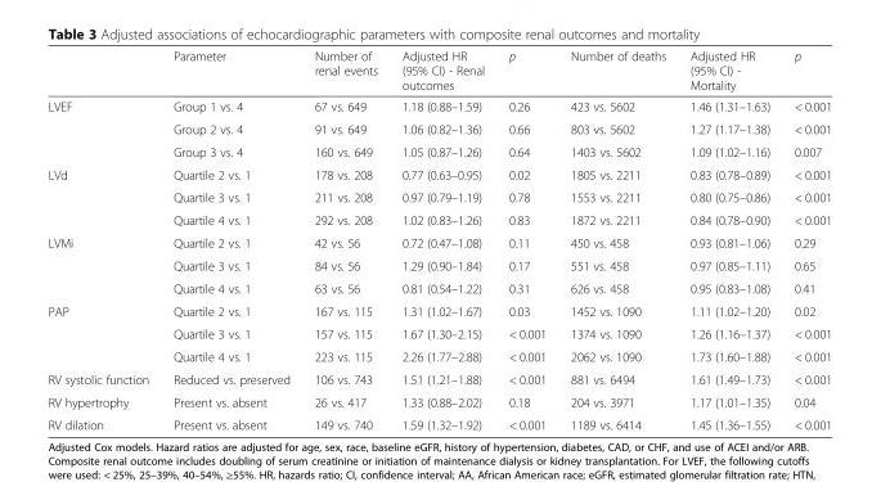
<table><thead><tr><td></td><td>Parameter</td><td>Number of renal events</td><td>Adjusted HR (95% CI) - Renal outcomes</td><td>p</td><td>Number of deaths</td><td>Adjusted HR (95% CI) - Mortality</td><td>p</td></tr></thead><tbody><tr><td rowspan="3">LVEF</td><td>Group 1 vs. 4</td><td>67 vs. 649</td><td>1.18 (0.88–1.59)</td><td>0.26</td><td>423 vs. 5602</td><td>1.46 (1.31–1.63)</td><td>&lt; 0.001</td></tr><tr><td>Group 2 vs. 4</td><td>91 vs. 649</td><td>1.06 (0.82–1.36)</td><td>0.66</td><td>803 vs. 5602</td><td>1.27 (1.17–1.38)</td><td>&lt; 0.001</td></tr><tr><td>Group 3 vs. 4</td><td>160 vs. 649</td><td>1.05 (0.87–1.26)</td><td>0.64</td><td>1403 vs. 5602</td><td>1.09 (1.02–1.16)</td><td>0.007</td></tr><tr><td rowspan="3">LVd</td><td>Quartile 2 vs. 1</td><td>178 vs. 208</td><td>0.77 (0.63–0.95)</td><td>0.02</td><td>1805 vs. 2211</td><td>0.83 (0.78–0.89)</td><td>&lt; 0.001</td></tr><tr><td>Quartile 3 vs. 1</td><td>211 vs. 208</td><td>0.97 (0.79–1.19)</td><td>0.78</td><td>1553 vs. 2211</td><td>0.80 (0.75–0.86)</td><td>&lt; 0.001</td></tr><tr><td>Quartile 4 vs. 1</td><td>292 vs. 208</td><td>1.02 (0.83–1.26)</td><td>0.83</td><td>1872 vs. 2211</td><td>0.84 (0.78–0.90)</td><td>&lt; 0.001</td></tr><tr><td rowspan="3">LVMi</td><td>Quartile 2 vs. 1</td><td>42 vs. 56</td><td>0.72 (0.47–1.08)</td><td>0.11</td><td>450 vs. 458</td><td>0.93 (0.81–1.06)</td><td>0.29</td></tr><tr><td>Quartile 3 vs. 1</td><td>84 vs. 56</td><td>1.29 (0.90–1.84)</td><td>0.17</td><td>551 vs. 458</td><td>0.97 (0.85–1.11)</td><td>0.65</td></tr><tr><td>Quartile 4 vs. 1</td><td>63 vs. 56</td><td>0.81 (0.54–1.22)</td><td>0.31</td><td>626 vs. 458</td><td>0.95 (0.83–1.08)</td><td>0.41</td></tr><tr><td rowspan="3">PAP</td><td>Quartile 2 vs. 1</td><td>167 vs. 115</td><td>1.31 (1.02–1.67)</td><td>0.03</td><td>1452 vs. 1090</td><td>1.11 (1.02–1.20)</td><td>0.02</td></tr><tr><td>Quartile 3 vs. 1</td><td>157 vs. 115</td><td>1.67 (1.30–2.15)</td><td>&lt; 0.001</td><td>1374 vs. 1090</td><td>1.26 (1.16–1.37)</td><td>&lt; 0.001</td></tr><tr><td>Quartile 4 vs. 1</td><td>223 vs. 115</td><td>2.26 (1.77–2.88)</td><td>&lt; 0.001</td><td>2062 vs. 1090</td><td>1.73 (1.60–1.88)</td><td>&lt; 0.001</td></tr><tr><td>RV systolic function</td><td>Reduced vs. preserved</td><td>106 vs. 743</td><td>1.51 (1.21–1.88)</td><td>&lt; 0.001</td><td>881 vs. 6494</td><td>1.61 (1.49–1.73)</td><td>&lt; 0.001</td></tr><tr><td>RV hypertrophy</td><td>Present vs. absent</td><td>26 vs. 417</td><td>1.33 (0.88–2.02)</td><td>0.18</td><td>204 vs. 3971</td><td>1.17 (1.01–1.35)</td><td>0.04</td></tr><tr><td>RV dilation</td><td>Present vs. absent</td><td>149 vs. 740</td><td>1.59 (1.32–1.92)</td><td>&lt; 0.001</td><td>1189 vs. 6414</td><td>1.45 (1.36–1.55)</td><td>&lt; 0.001</td></tr></tbody></table>